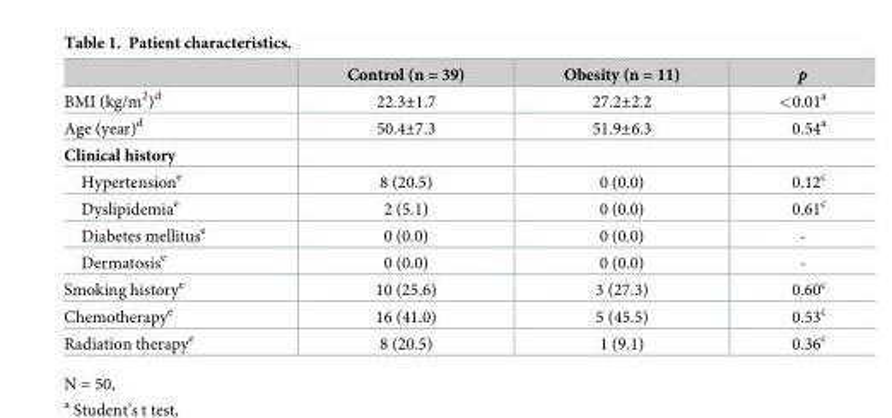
<table><thead><tr><td></td><td>Control (n = 39)</td><td>Obesity (n = 11)</td><td>p</td></tr></thead><tbody><tr><td>BMI (kg/m<sup>2</sup>)<sup>d</sup></td><td>22.3±1.7</td><td>27.2±2.2</td><td>&lt;0.01<sup>a</sup></td></tr><tr><td>Age (year)<sup>d</sup></td><td>50.4±7.3</td><td>51.9±6.3</td><td>0.54<sup>a</sup></td></tr><tr><td colspan="4">Clinical history</td></tr><tr><td>Hypertension<sup>e</sup></td><td>8 (20.5)</td><td>0 (0.0)</td><td>0.12<sup>c</sup></td></tr><tr><td>Dyslipidemia<sup>e</sup></td><td>2 (5.1)</td><td>0 (0.0)</td><td>0.61<sup>c</sup></td></tr><tr><td>Diabetes mellitus<sup>e</sup></td><td>0 (0.0)</td><td>0 (0.0)</td><td>-</td></tr><tr><td>Dermatosis<sup>e</sup></td><td>0 (0.0)</td><td>0 (0.0)</td><td>-</td></tr><tr><td>Smoking history<sup>e</sup></td><td>10 (25.6)</td><td>3 (27.3)</td><td>0.60<sup>c</sup></td></tr><tr><td>Chemotherapy<sup>e</sup></td><td>16 (41.0)</td><td>5 (45.5)</td><td>0.53<sup>c</sup></td></tr><tr><td>Radiation therapy<sup>e</sup></td><td>8 (20.5)</td><td>1 (9.1)</td><td>0.36<sup>c</sup></td></tr></tbody></table>